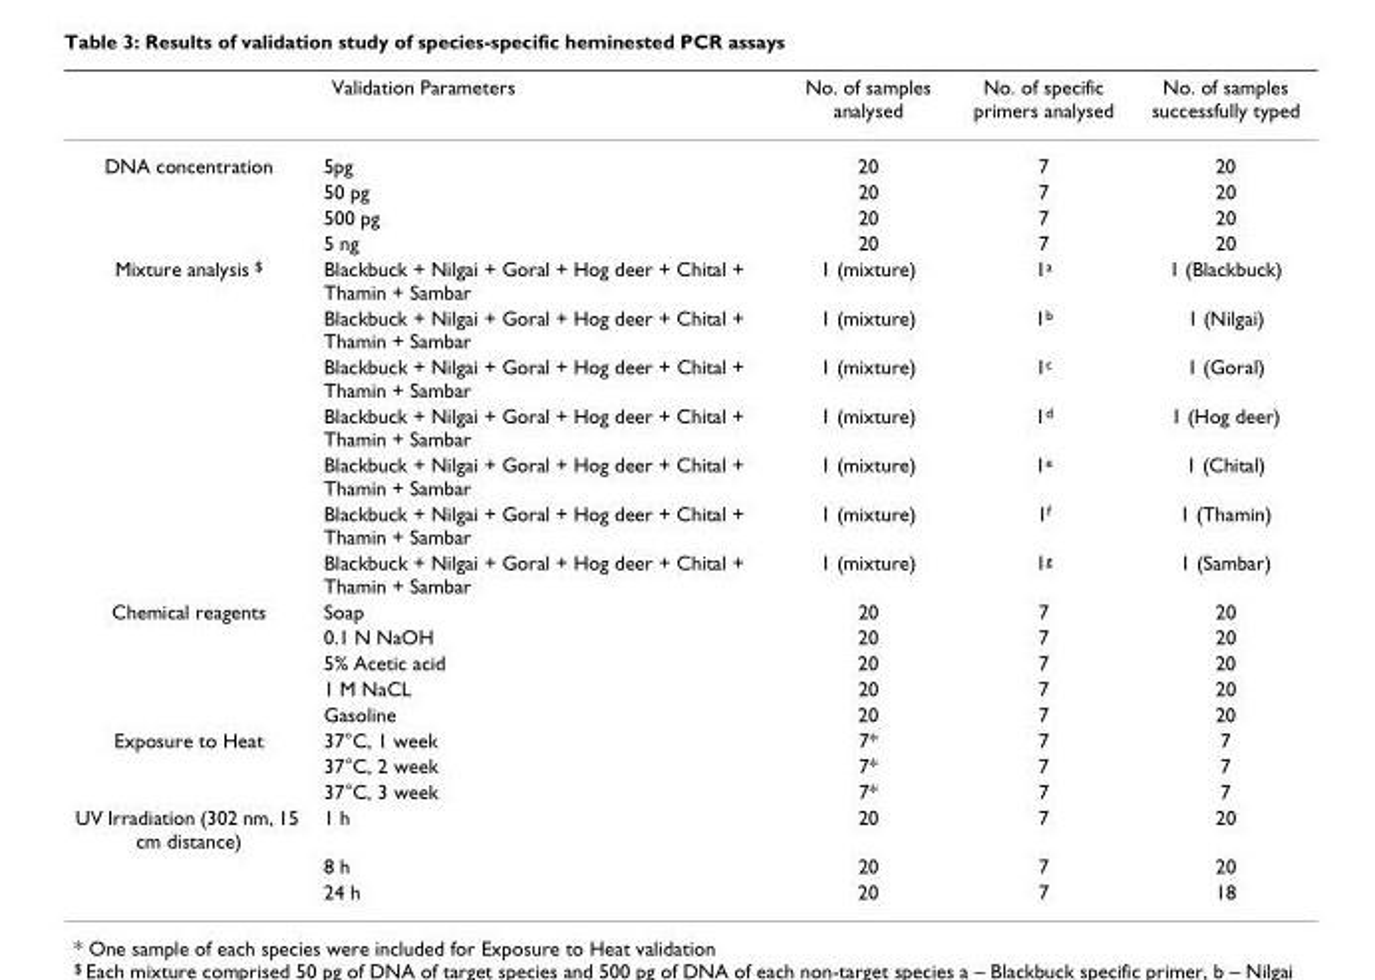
<table><thead><tr><td colspan="2">Validation Parameters</td><td rowspan="2">No. of samples analysed 20</td><td rowspan="2">No. of specific primers analysed 7</td><td rowspan="2">No. of samples successfully typed 20</td></tr><tr><td>DNA concentration</td><td>5pg</td></tr></thead><tbody><tr><td></td><td>50 pg</td><td>20</td><td>7</td><td>20</td></tr><tr><td></td><td>500 pg</td><td>20</td><td>7</td><td>20</td></tr><tr><td></td><td>5 ng</td><td>20</td><td>7</td><td>20</td></tr><tr><td rowspan="7">Mixture analysis <sup>$</sup></td><td>Blackbuck + Nilgai + Goral + Hog deer + Chital + Thamin + Sambar</td><td>1 (mixture)</td><td>1<sup>a</sup></td><td>1 (Blackbuck)</td></tr><tr><td>Blackbuck + Nilgai + Goral + Hog deer + Chital + Thamin + Sambar</td><td>1 (mixture)</td><td>1<sup>b</sup></td><td>1 (Nilgai)</td></tr><tr><td>Blackbuck + Nilgai + Goral + Hog deer + Chital + Thamin + Sambar</td><td>1 (mixture)</td><td>1<sup>c</sup></td><td>1 (Goral)</td></tr><tr><td>Blackbuck + Nilgai + Goral + Hog deer + Chital + Thamin + Sambar</td><td>1 (mixture)</td><td>1<sup>d</sup></td><td>1 (Hog deer)</td></tr><tr><td>Blackbuck + Nilgai + Goral + Hog deer + Chital + Thamin + Sambar</td><td>1 (mixture)</td><td>1<sup>e</sup></td><td>1 (Chital)</td></tr><tr><td>Blackbuck + Nilgai + Goral + Hog deer + Chital + Thamin + Sambar</td><td>1 (mixture)</td><td>1<sup>f</sup></td><td>1 (Thamin)</td></tr><tr><td>Blackbuck + Nilgai + Goral + Hog deer + Chital + Thamin + Sambar</td><td>1 (mixture)</td><td>1<sup>g</sup></td><td>1 (Sambar)</td></tr><tr><td rowspan="5">Chemical reagents</td><td>Soap</td><td>20</td><td>7</td><td>20</td></tr><tr><td>0.1 N NaOH</td><td>20</td><td>7</td><td>20</td></tr><tr><td>5% Acetic acid</td><td>20</td><td>7</td><td>20</td></tr><tr><td>1 M NaCL</td><td>20</td><td>7</td><td>20</td></tr><tr><td>Gasoline</td><td>20</td><td>7</td><td>20</td></tr><tr><td rowspan="3">Exposure to Heat</td><td>37°C, 1 week</td><td>7*</td><td>7</td><td>7</td></tr><tr><td>37°C, 2 week</td><td>7*</td><td>7</td><td>7</td></tr><tr><td>37°C, 3 week</td><td>7*</td><td>7</td><td>7</td></tr><tr><td rowspan="3">UV Irradiation (302 nm, 15 cm distance)</td><td>1 h</td><td>20</td><td>7</td><td>20</td></tr><tr><td>8 h</td><td>20</td><td>7</td><td>20</td></tr><tr><td>24 h</td><td>20</td><td>7</td><td>18</td></tr></tbody></table>